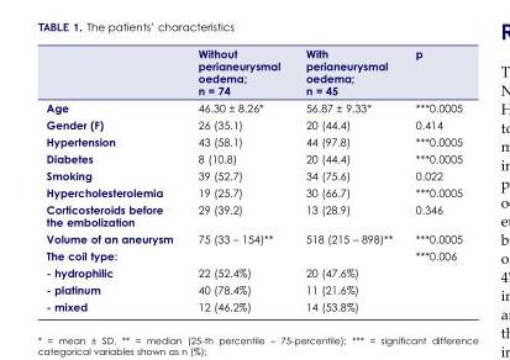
<table><thead><tr><td></td><td>Without perianeurysmal oedema; n = 74</td><td>With perianeurysmal oedema; n = 45</td><td>p</td></tr></thead><tbody><tr><td>Age</td><td>46.30 ± 8.26*</td><td>56.87 ± 9.33*</td><td>***0.0005</td></tr><tr><td>Gender (F)</td><td>26 (35.1)</td><td>20 (44.4)</td><td>0.414</td></tr><tr><td>Hypertension</td><td>43 (58.1)</td><td>44 (97.8)</td><td>***0.0005</td></tr><tr><td>Diabetes</td><td>8 (10.8)</td><td>20 (44.4)</td><td>***0.0005</td></tr><tr><td>Smoking</td><td>39 (52.7)</td><td>34 (75.6)</td><td>0.022</td></tr><tr><td>Hypercholesterolemia</td><td>19 (25.7)</td><td>30 (66.7)</td><td>***0.0005</td></tr><tr><td>Corticosteroids before the embolization</td><td>29 (39.2)</td><td>13 (28.9)</td><td>0.346</td></tr><tr><td>Volume of an aneurysm</td><td>75 (33 – 154)**</td><td>518 (215 – 898)**</td><td>***0.0005</td></tr><tr><td>The coil type:</td><td></td><td></td><td>***0.006</td></tr><tr><td>- hydrophilic</td><td>22 (52.4%)</td><td>20 (47.6%)</td><td></td></tr><tr><td>- platinum</td><td>40 (78.4%)</td><td>11 (21.6%)</td><td></td></tr><tr><td>- mixed</td><td>12 (46.2%)</td><td>14 (53.8%)</td><td></td></tr></tbody></table>